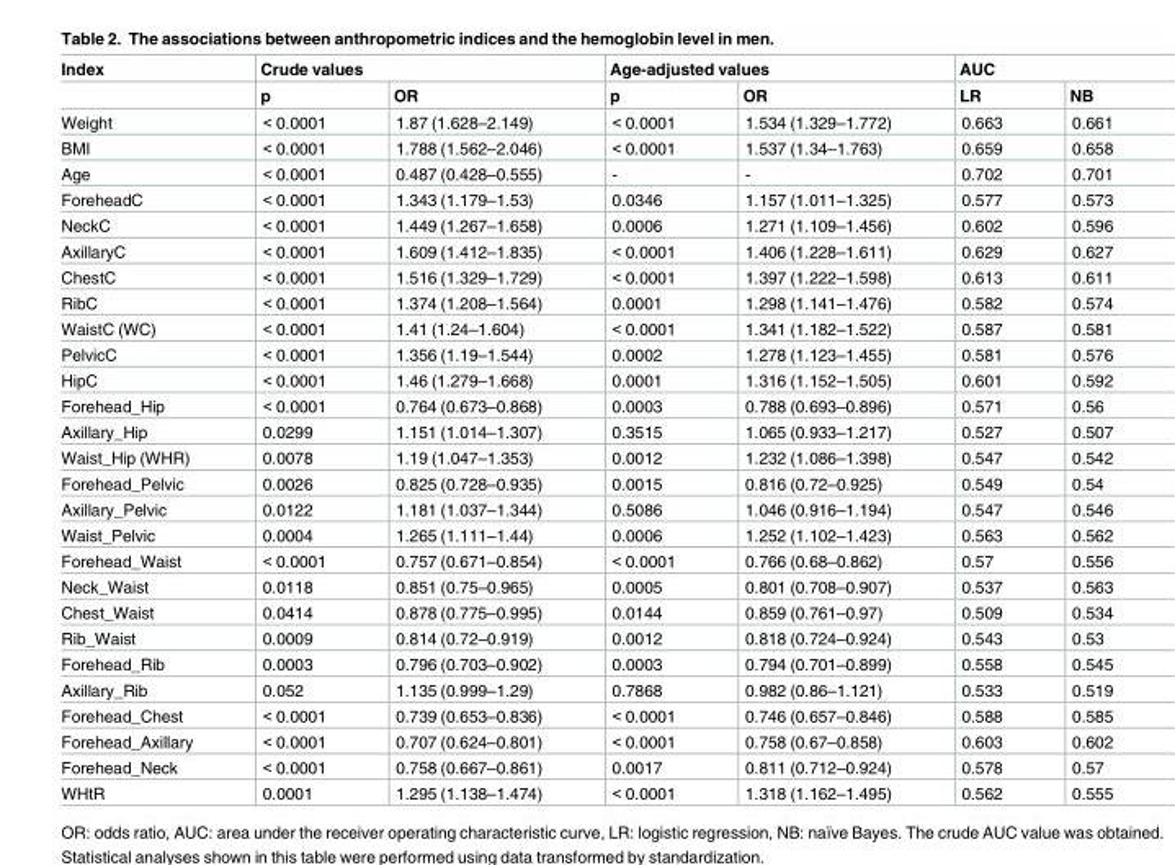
<table><thead><tr><td rowspan="2">Index</td><td colspan="2">Crude values</td><td colspan="2">Age-adjusted values</td><td colspan="2">AUC</td></tr><tr><td>p</td><td>OR</td><td>p</td><td>OR</td><td>LR</td><td>NB</td></tr></thead><tbody><tr><td>Weight</td><td>&lt; 0.0001</td><td>1.87 (1.628–2.149)</td><td>&lt; 0.0001</td><td>1.534 (1.329–1.772)</td><td>0.663</td><td>0.661</td></tr><tr><td>BMI</td><td>&lt; 0.0001</td><td>1.788 (1.562–2.046)</td><td>&lt; 0.0001</td><td>1.537 (1.34–1.763)</td><td>0.659</td><td>0.658</td></tr><tr><td>Age</td><td>&lt; 0.0001</td><td>0.487 (0.428–0.555)</td><td>-</td><td>-</td><td>0.702</td><td>0.701</td></tr><tr><td>ForeheadC</td><td>&lt; 0.0001</td><td>1.343 (1.179–1.53)</td><td>0.0346</td><td>1.157 (1.011–1.325)</td><td>0.577</td><td>0.573</td></tr><tr><td>NeckC</td><td>&lt; 0.0001</td><td>1.449 (1.267–1.658)</td><td>0.0006</td><td>1.271 (1.109–1.456)</td><td>0.602</td><td>0.596</td></tr><tr><td>AxillaryC</td><td>&lt; 0.0001</td><td>1.609 (1.412–1.835)</td><td>&lt; 0.0001</td><td>1.406 (1.228–1.611)</td><td>0.629</td><td>0.627</td></tr><tr><td>ChestC</td><td>&lt; 0.0001</td><td>1.516 (1.329–1.729)</td><td>&lt; 0.0001</td><td>1.397 (1.222–1.598)</td><td>0.613</td><td>0.611</td></tr><tr><td>RibC</td><td>&lt; 0.0001</td><td>1.374 (1.208–1.564)</td><td>0.0001</td><td>1.298 (1.141–1.476)</td><td>0.582</td><td>0.574</td></tr><tr><td>WaistC (WC)</td><td>&lt; 0.0001</td><td>1.41 (1.24–1.604)</td><td>&lt; 0.0001</td><td>1.341 (1.182–1.522)</td><td>0.587</td><td>0.581</td></tr><tr><td>PelvicC</td><td>&lt; 0.0001</td><td>1.356 (1.19–1.544)</td><td>0.0002</td><td>1.278 (1.123–1.455)</td><td>0.581</td><td>0.576</td></tr><tr><td>HipC</td><td>&lt; 0.0001</td><td>1.46 (1.279–1.668)</td><td>0.0001</td><td>1.316 (1.152–1.505)</td><td>0.601</td><td>0.592</td></tr><tr><td>Forehead_Hip</td><td>&lt; 0.0001</td><td>0.764 (0.673–0.868)</td><td>0.0003</td><td>0.788 (0.693–0.896)</td><td>0.571</td><td>0.56</td></tr><tr><td>Axillary_Hip</td><td>0.0299</td><td>1.151 (1.014–1.307)</td><td>0.3515</td><td>1.065 (0.933–1.217)</td><td>0.527</td><td>0.507</td></tr><tr><td>Waist_Hip (WHR)</td><td>0.0078</td><td>1.19 (1.047–1.353)</td><td>0.0012</td><td>1.232 (1.086–1.398)</td><td>0.547</td><td>0.542</td></tr><tr><td>Forehead_Pelvic</td><td>0.0026</td><td>0.825 (0.728–0.935)</td><td>0.0015</td><td>0.816 (0.72–0.925)</td><td>0.549</td><td>0.54</td></tr><tr><td>Axillary_Pelvic</td><td>0.0122</td><td>1.181 (1.037–1.344)</td><td>0.5086</td><td>1.046 (0.916–1.194)</td><td>0.547</td><td>0.546</td></tr><tr><td>Waist_Pelvic</td><td>0.0004</td><td>1.265 (1.111–1.44)</td><td>0.0006</td><td>1.252 (1.102–1.423)</td><td>0.563</td><td>0.562</td></tr><tr><td>Forehead_Waist</td><td>&lt; 0.0001</td><td>0.757 (0.671–0.854)</td><td>&lt; 0.0001</td><td>0.766 (0.68–0.862)</td><td>0.57</td><td>0.556</td></tr><tr><td>Neck_Waist</td><td>0.0118</td><td>0.851 (0.75–0.965)</td><td>0.0005</td><td>0.801 (0.708–0.907)</td><td>0.537</td><td>0.563</td></tr><tr><td>Chest_Waist</td><td>0.0414</td><td>0.878 (0.775–0.995)</td><td>0.0144</td><td>0.859 (0.761–0.97)</td><td>0.509</td><td>0.534</td></tr><tr><td>Rib_Waist</td><td>0.0009</td><td>0.814 (0.72–0.919)</td><td>0.0012</td><td>0.818 (0.724–0.924)</td><td>0.543</td><td>0.53</td></tr><tr><td>Forehead_Rib</td><td>0.0003</td><td>0.796 (0.703–0.902)</td><td>0.0003</td><td>0.794 (0.701–0.899)</td><td>0.558</td><td>0.545</td></tr><tr><td>Axillary_Rib</td><td>0.052</td><td>1.135 (0.999–1.29)</td><td>0.7868</td><td>0.982 (0.86–1.121)</td><td>0.533</td><td>0.519</td></tr><tr><td>Forehead_Chest</td><td>&lt; 0.0001</td><td>0.739 (0.653–0.836)</td><td>&lt; 0.0001</td><td>0.746 (0.657–0.846)</td><td>0.588</td><td>0.585</td></tr><tr><td>Forehead_Axillary</td><td>&lt; 0.0001</td><td>0.707 (0.624–0.801)</td><td>&lt; 0.0001</td><td>0.758 (0.67–0.858)</td><td>0.603</td><td>0.602</td></tr><tr><td>Forehead_Neck</td><td>&lt; 0.0001</td><td>0.758 (0.667–0.861)</td><td>0.0017</td><td>0.811 (0.712–0.924)</td><td>0.578</td><td>0.57</td></tr><tr><td>WHtR</td><td>0.0001</td><td>1.295 (1.138–1.474)</td><td>&lt; 0.0001</td><td>1.318 (1.162–1.495)</td><td>0.562</td><td>0.555</td></tr></tbody></table>